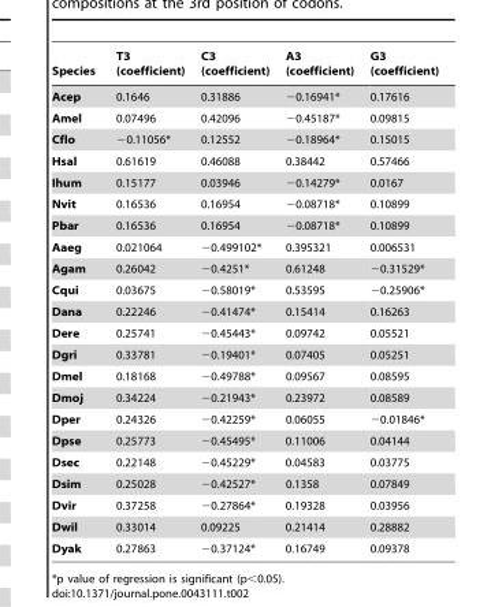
<table><thead><tr><td>Species</td><td>T3 (coefficient)</td><td>C3 (coefficient)</td><td>A3 (coefficient)</td><td>G3 (coefficient)</td></tr></thead><tbody><tr><td>Acep</td><td>0.1646</td><td>0.31886</td><td>−0.16941*</td><td>0.17616</td></tr><tr><td>Amel</td><td>0.07496</td><td>0.42096</td><td>−0.45187*</td><td>0.09815</td></tr><tr><td>Cflo</td><td>−0.11056*</td><td>0.12552</td><td>−0.18964*</td><td>0.15015</td></tr><tr><td>Hsal</td><td>0.61619</td><td>0.46088</td><td>0.38442</td><td>0.57466</td></tr><tr><td>Ihum</td><td>0.15177</td><td>0.03946</td><td>−0.14279*</td><td>0.0167</td></tr><tr><td>Nvit</td><td>0.16536</td><td>0.16954</td><td>−0.08718*</td><td>0.10899</td></tr><tr><td>Pbar</td><td>0.16536</td><td>0.16954</td><td>−0.08718*</td><td>0.10899</td></tr><tr><td>Aaeg</td><td>0.021064</td><td>−0.499102*</td><td>0.395321</td><td>0.006531</td></tr><tr><td>Agam</td><td>0.26042</td><td>−0.4251*</td><td>0.61248</td><td>−0.31529*</td></tr><tr><td>Cqui</td><td>0.03675</td><td>−0.58019*</td><td>0.53595</td><td>−0.25906*</td></tr><tr><td>Dana</td><td>0.22246</td><td>−0.41474*</td><td>0.15414</td><td>0.16263</td></tr><tr><td>Dere</td><td>0.25741</td><td>−0.45443*</td><td>0.09742</td><td>0.05521</td></tr><tr><td>Dgri</td><td>0.33781</td><td>−0.19401*</td><td>0.07405</td><td>0.05251</td></tr><tr><td>Dmel</td><td>0.18168</td><td>−0.49788*</td><td>0.09567</td><td>0.08595</td></tr><tr><td>Dmoj</td><td>0.34224</td><td>−0.21943*</td><td>0.23972</td><td>0.08589</td></tr><tr><td>Dper</td><td>0.24326</td><td>−0.42259*</td><td>0.06055</td><td>−0.01846*</td></tr><tr><td>Dpse</td><td>0.25773</td><td>−0.45495*</td><td>0.11006</td><td>0.04144</td></tr><tr><td>Dsec</td><td>0.22148</td><td>−0.45229*</td><td>0.04583</td><td>0.03775</td></tr><tr><td>Dsim</td><td>0.25028</td><td>−0.42527*</td><td>0.1358</td><td>0.07849</td></tr><tr><td>Dvir</td><td>0.37258</td><td>−0.27864*</td><td>0.19328</td><td>0.03956</td></tr><tr><td>Dwil</td><td>0.33014</td><td>0.09225</td><td>0.21414</td><td>0.28882</td></tr><tr><td>Dyak</td><td>0.27863</td><td>−0.37124*</td><td>0.16749</td><td>0.09378</td></tr></tbody></table>